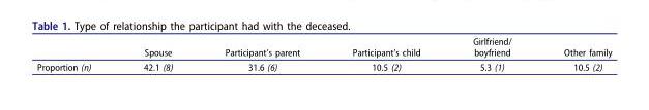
<table><thead><tr><td></td><td>Spouse</td><td>Participant’s parent</td><td>Participant’s child</td><td>Girlfriend/ boyfriend</td><td>Other family</td></tr></thead><tbody><tr><td>Proportion (n)</td><td>42.1 (8)</td><td>31.6 (6)</td><td>10.5 (2)</td><td>5.3 (1)</td><td>10.5 (2)</td></tr></tbody></table>